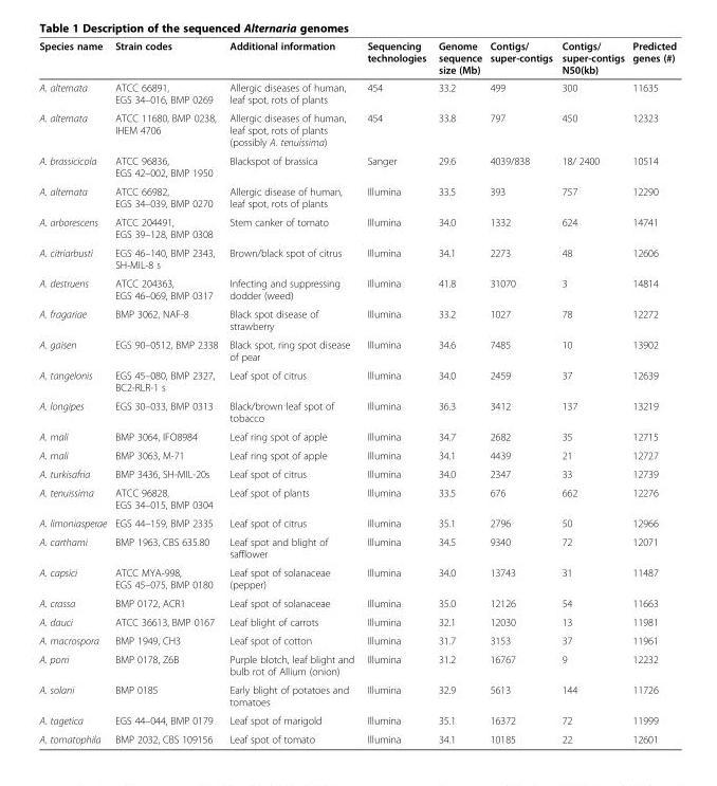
<table><thead><tr><td>Species name</td><td>Strain codes</td><td>Additional information</td><td>Sequencing technologies</td><td>Genome sequence size (Mb)</td><td>Contigs/ super-contigs</td><td>Contigs/ super-contigs N50(kb)</td><td>Predicted genes (#)</td></tr></thead><tbody><tr><td>A. alternata</td><td>ATCC 66891, EGS 34–016, BMP 0269</td><td>Allergic diseases of human, leaf spot, rots of plants</td><td>454</td><td>33.2</td><td>499</td><td>300</td><td>11635</td></tr><tr><td>A. alternata</td><td>ATCC 11680, BMP 0238, IHEM 4706</td><td>Allergic diseases of human, leaf spot, rots of plants (possibly A. tenuissima)</td><td>454</td><td>33.8</td><td>797</td><td>450</td><td>12323</td></tr><tr><td>A. brassicicola</td><td>ATCC 96836, EGS 42–002, BMP 1950</td><td>Blackspot of brassica</td><td>Sanger</td><td>29.6</td><td>4039/838</td><td>18/ 2400</td><td>10514</td></tr><tr><td>A. alternata</td><td>ATCC 66982, EGS 34–039, BMP 0270</td><td>Allergic disease of human, leaf spot, rots of plants</td><td>Illumina</td><td>33.5</td><td>393</td><td>757</td><td>12290</td></tr><tr><td>A. arborescens</td><td>ATCC 204491, EGS 39–128, BMP 0308</td><td>Stem canker of tomato</td><td>Illumina</td><td>34.0</td><td>1332</td><td>624</td><td>14741</td></tr><tr><td>A. citriarbusti</td><td>EGS 46–140, BMP 2343, SH-MIL-8 s</td><td>Brown/black spot of citrus</td><td>Illumina</td><td>34.1</td><td>2273</td><td>48</td><td>12606</td></tr><tr><td>A. destruens</td><td>ATCC 204363, EGS 46–069, BMP 0317</td><td>Infecting and suppressing dodder (weed)</td><td>Illumina</td><td>41.8</td><td>31070</td><td>3</td><td>14814</td></tr><tr><td>A. fragariae</td><td>BMP 3062, NAF-8</td><td>Black spot disease of strawberry</td><td>Illumina</td><td>33.2</td><td>1027</td><td>78</td><td>12272</td></tr><tr><td>A. gaisen</td><td>EGS 90–0512, BMP 2338</td><td>Black spot, ring spot disease of pear</td><td>Illumina</td><td>34.6</td><td>7485</td><td>10</td><td>13902</td></tr><tr><td>A. tangelonis</td><td>EGS 45–080, BMP 2327, BC2-RLR-1 s</td><td>Leaf spot of citrus</td><td>Illumina</td><td>34.0</td><td>2459</td><td>37</td><td>12639</td></tr><tr><td>A. longipes</td><td>EGS 30–033, BMP 0313</td><td>Black/brown leaf spot of tobacco</td><td>Illumina</td><td>36.3</td><td>3412</td><td>137</td><td>13219</td></tr><tr><td>A. mali</td><td>BMP 3064, IFO8984</td><td>Leaf ring spot of apple</td><td>Illumina</td><td>34.7</td><td>2682</td><td>35</td><td>12715</td></tr><tr><td>A. mali</td><td>BMP 3063, M-71</td><td>Leaf ring spot of apple</td><td>Illumina</td><td>34.1</td><td>4439</td><td>21</td><td>12727</td></tr><tr><td>A. turkisafria</td><td>BMP 3436, SH-MIL-20s</td><td>Leaf spot of citrus</td><td>Illumina</td><td>34.0</td><td>2347</td><td>33</td><td>12739</td></tr><tr><td>A. tenuissima</td><td>ATCC 96828, EGS 34–015, BMP 0304</td><td>Leaf spot of plants</td><td>Illumina</td><td>33.5</td><td>676</td><td>662</td><td>12276</td></tr><tr><td>A. limoniasperae</td><td>EGS 44–159, BMP 2335</td><td>Leaf spot of citrus</td><td>Illumina</td><td>35.1</td><td>2796</td><td>50</td><td>12966</td></tr><tr><td>A. carthami</td><td>BMP 1963, CBS 635.80</td><td>Leaf spot and blight of safflower</td><td>Illumina</td><td>34.5</td><td>9340</td><td>72</td><td>12071</td></tr><tr><td>A. capsici</td><td>ATCC MYA-998, EGS 45–075, BMP 0180</td><td>Leaf spot of solanaceae (pepper)</td><td>Illumina</td><td>34.0</td><td>13743</td><td>31</td><td>11487</td></tr><tr><td>A. crassa</td><td>BMP 0172, ACR1</td><td>Leaf spot of solanaceae</td><td>Illumina</td><td>35.0</td><td>12126</td><td>54</td><td>11663</td></tr><tr><td>A. dauci</td><td>ATCC 36613, BMP 0167</td><td>Leaf blight of carrots</td><td>Illumina</td><td>32.1</td><td>12030</td><td>13</td><td>11981</td></tr><tr><td>A. macrospora</td><td>BMP 1949, CH3</td><td>Leaf spot of cotton</td><td>Illumina</td><td>31.7</td><td>3153</td><td>37</td><td>11961</td></tr><tr><td>A. porri</td><td>BMP 0178, Z6B</td><td>Purple blotch, leaf blight and bulb rot of Allium (onion)</td><td>Illumina</td><td>31.2</td><td>16767</td><td>9</td><td>12232</td></tr><tr><td>A. solani</td><td>BMP 0185</td><td>Early blight of potatoes and tomatoes</td><td>Illumina</td><td>32.9</td><td>5613</td><td>144</td><td>11726</td></tr><tr><td>A. tagetica</td><td>EGS 44–044, BMP 0179</td><td>Leaf spot of marigold</td><td>Illumina</td><td>35.1</td><td>16372</td><td>72</td><td>11999</td></tr><tr><td>A. tomatophila</td><td>BMP 2032, CBS 109156</td><td>Leaf spot of tomato</td><td>Illumina</td><td>34.1</td><td>10185</td><td>22</td><td>12601</td></tr></tbody></table>